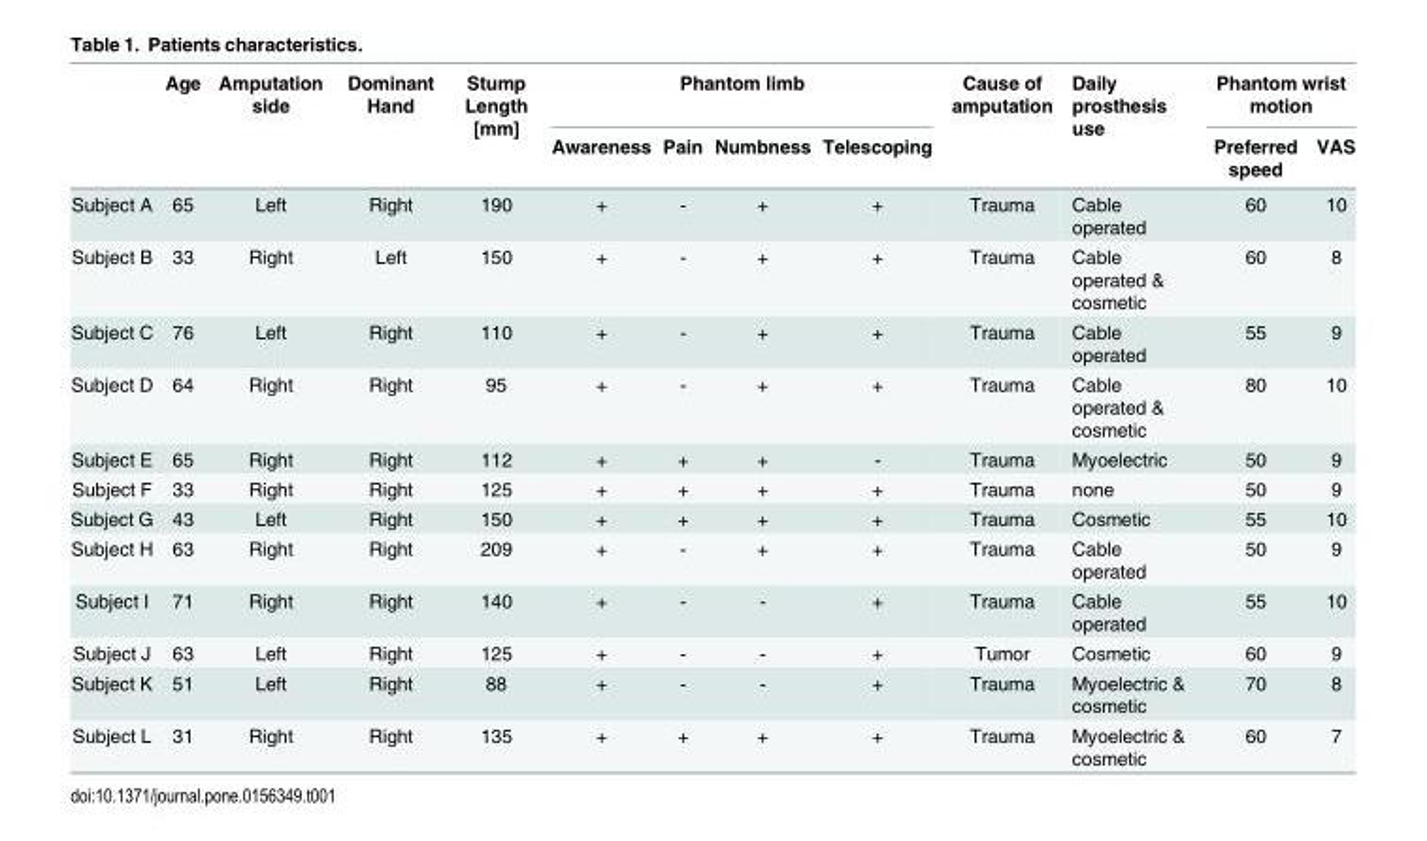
<table><thead><tr><td rowspan="2"></td><td rowspan="2">Age</td><td rowspan="2">Amputation side</td><td rowspan="2">Dominant Hand</td><td rowspan="2">Stump Length [mm]</td><td colspan="4">Phantom limb</td><td rowspan="2">Cause of amputation</td><td rowspan="2">Daily prosthesis use</td><td colspan="2">Phantom wrist motion</td></tr><tr><td>Awareness</td><td>Pain</td><td>Numbness</td><td>Telescoping</td><td>Preferred speed</td><td>VAS</td></tr></thead><tbody><tr><td>Subject A</td><td>65</td><td>Left</td><td>Right</td><td>190</td><td>+</td><td>-</td><td>+</td><td>+</td><td>Trauma</td><td>Cable operated</td><td>60</td><td>10</td></tr><tr><td>Subject B</td><td>33</td><td>Right</td><td>Left</td><td>150</td><td>+</td><td>-</td><td>+</td><td>+</td><td>Trauma</td><td>Cable operated &amp; cosmetic</td><td>60</td><td>8</td></tr><tr><td>Subject C</td><td>76</td><td>Left</td><td>Right</td><td>110</td><td>+</td><td>-</td><td>+</td><td>+</td><td>Trauma</td><td>Cable operated</td><td>55</td><td>9</td></tr><tr><td>Subject D</td><td>64</td><td>Right</td><td>Right</td><td>95</td><td>+</td><td>-</td><td>+</td><td>+</td><td>Trauma</td><td>Cable operated &amp; cosmetic</td><td>80</td><td>10</td></tr><tr><td>Subject E</td><td>65</td><td>Right</td><td>Right</td><td>112</td><td>+</td><td>+</td><td>+</td><td>-</td><td>Trauma</td><td>Myoelectric</td><td>50</td><td>9</td></tr><tr><td>Subject F</td><td>33</td><td>Right</td><td>Right</td><td>125</td><td>+</td><td>+</td><td>+</td><td>+</td><td>Trauma</td><td>none</td><td>50</td><td>9</td></tr><tr><td>Subject G</td><td>43</td><td>Left</td><td>Right</td><td>150</td><td>+</td><td>+</td><td>+</td><td>+</td><td>Trauma</td><td>Cosmetic</td><td>55</td><td>10</td></tr><tr><td>Subject H</td><td>63</td><td>Right</td><td>Right</td><td>209</td><td>+</td><td>-</td><td>+</td><td>+</td><td>Trauma</td><td>Cable operated</td><td>50</td><td>9</td></tr><tr><td>Subject I</td><td>71</td><td>Right</td><td>Right</td><td>140</td><td>+</td><td>-</td><td>-</td><td>+</td><td>Trauma</td><td>Cable operated</td><td>55</td><td>10</td></tr><tr><td>Subject J</td><td>63</td><td>Left</td><td>Right</td><td>125</td><td>+</td><td>-</td><td>-</td><td>+</td><td>Tumor</td><td>Cosmetic</td><td>60</td><td>9</td></tr><tr><td>Subject K</td><td>51</td><td>Left</td><td>Right</td><td>88</td><td>+</td><td>-</td><td>-</td><td>+</td><td>Trauma</td><td>Myoelectric &amp; cosmetic</td><td>70</td><td>8</td></tr><tr><td>Subject L</td><td>31</td><td>Right</td><td>Right</td><td>135</td><td>+</td><td>+</td><td>+</td><td>+</td><td>Trauma</td><td>Myoelectric &amp; cosmetic</td><td>60</td><td>7</td></tr></tbody></table>